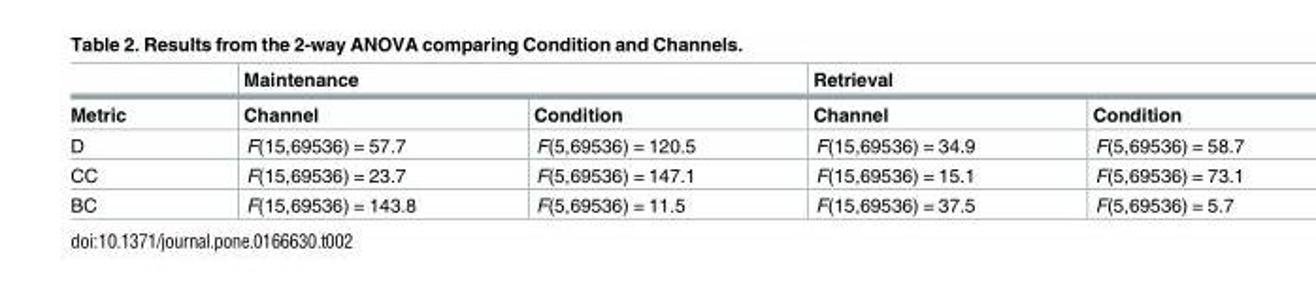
<table><thead><tr><td rowspan="2">Metric</td><td colspan="2">Maintenance</td><td colspan="2">Retrieval</td></tr><tr><td>Channel</td><td>Condition</td><td>Channel</td><td>Condition</td></tr></thead><tbody><tr><td>D</td><td>F(15,69536) = 57.7</td><td>F(5,69536) = 120.5</td><td>F(15,69536) = 34.9</td><td>F(5,69536) = 58.7</td></tr><tr><td>CC</td><td>F(15,69536) = 23.7</td><td>F(5,69536) = 147.1</td><td>F(15,69536) = 15.1</td><td>F(5,69536) = 73.1</td></tr><tr><td>BC</td><td>F(15,69536) = 143.8</td><td>F(5,69536) = 11.5</td><td>F(15,69536) = 37.5</td><td>F(5,69536) = 5.7</td></tr></tbody></table>